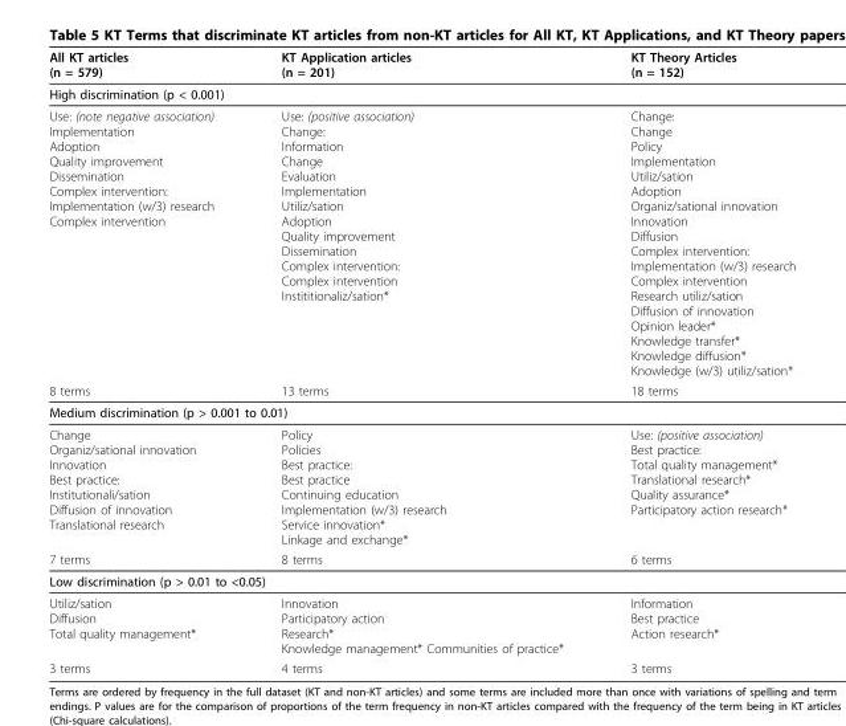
<table><thead><tr><td>All KT articles (n = 579)</td><td>KT Application articles (n = 201)</td><td>KT Theory Articles (n = 152)</td></tr></thead><tbody><tr><td colspan="3">High discrimination (p &lt; 0.001)</td></tr><tr><td>Use: (note negative association) Implementation Adoption Quality improvement Dissemination Complex intervention: Implementation (w/3) research Complex intervention</td><td>Use: (positive association) Change: Information Change Evaluation Implementation Utiliz/sation Adoption Quality improvement Dissemination Complex intervention: Complex intervention Instititionaliz/sation*</td><td>Change: Change Policy Implementation Utiliz/sation Adoption Organiz/sational innovation Innovation Diffusion Complex intervention: Implementation (w/3) research Complex intervention Research utiliz/sation Diffusion of innovation Opinion leader* Knowledge transfer* Knowledge diffusion* Knowledge (w/3) utiliz/sation*</td></tr><tr><td>8 terms</td><td>13 terms</td><td>18 terms</td></tr><tr><td colspan="3">Medium discrimination (p &gt; 0.001 to 0.01)</td></tr><tr><td>Change Organiz/sational innovation Innovation Best practice: Institutionali/sation Diffusion of innovation Translational research</td><td>Policy Policies Best practice: Best practice Continuing education Implementation (w/3) research Service innovation* Linkage and exchange*</td><td>Use: (positive association) Best practice: Total quality management* Translational research* Quality assurance* Participatory action research*</td></tr><tr><td>7 terms</td><td>8 terms</td><td>6 terms</td></tr><tr><td colspan="3">Low discrimination (p &gt; 0.01 to &lt;0.05)</td></tr><tr><td>Utiliz/sation Diffusion Total quality management*</td><td>Innovation Participatory action Research* Knowledge management* Communities of practice*</td><td>Information Best practice Action research*</td></tr><tr><td>3 terms</td><td>4 terms</td><td>3 terms</td></tr></tbody></table>